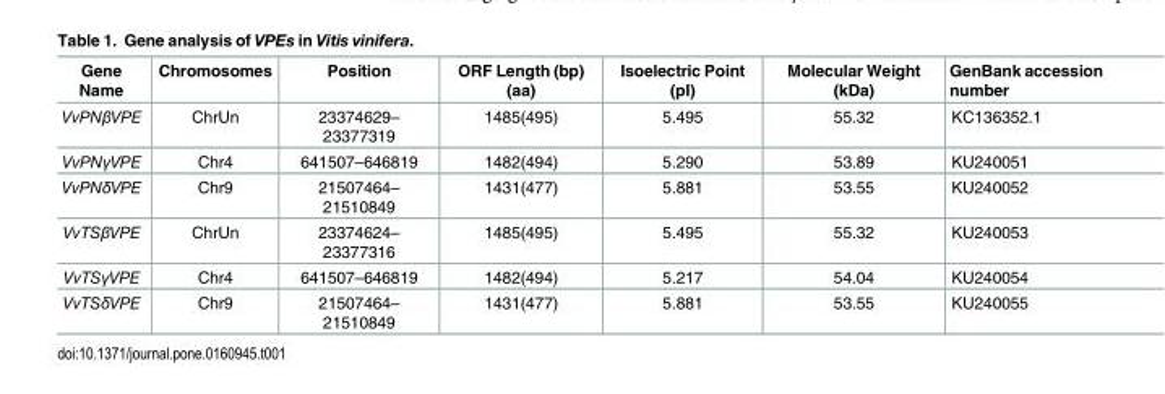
<table><thead><tr><td>Gene Name</td><td>Chromosomes</td><td>Position</td><td>ORF Length (bp) (aa)</td><td>Isoelectric Point (pI)</td><td>Molecular Weight (kDa)</td><td>GenBank accession number</td></tr></thead><tbody><tr><td>VvPNβVPE</td><td>ChrUn</td><td>23374629– 23377319</td><td>1485(495)</td><td>5.495</td><td>55.32</td><td>KC136352.1</td></tr><tr><td>VvPNγVPE</td><td>Chr4</td><td>641507–646819</td><td>1482(494)</td><td>5.290</td><td>53.89</td><td>KU240051</td></tr><tr><td>VvPNδVPE</td><td>Chr9</td><td>21507464– 21510849</td><td>1431(477)</td><td>5.881</td><td>53.55</td><td>KU240052</td></tr><tr><td>VvTSβVPE</td><td>ChrUn</td><td>23374624– 23377316</td><td>1485(495)</td><td>5.495</td><td>55.32</td><td>KU240053</td></tr><tr><td>VvTSγVPE</td><td>Chr4</td><td>641507–646819</td><td>1482(494)</td><td>5.217</td><td>54.04</td><td>KU240054</td></tr><tr><td>VvTSδVPE</td><td>Chr9</td><td>21507464– 21510849</td><td>1431(477)</td><td>5.881</td><td>53.55</td><td>KU240055</td></tr></tbody></table>